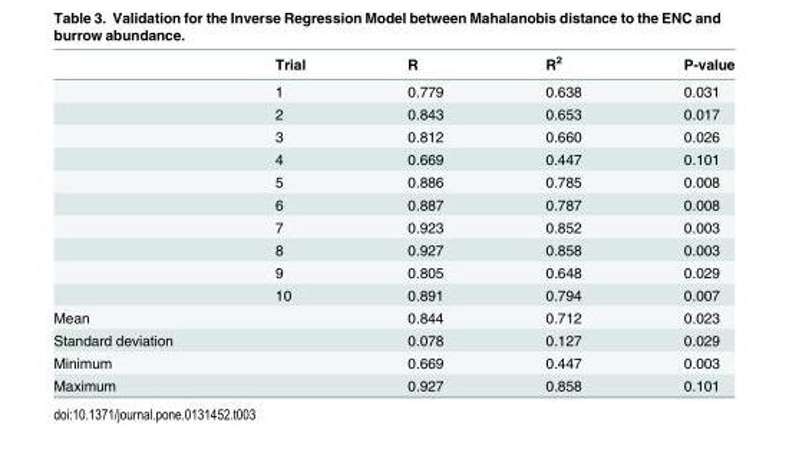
<table><thead><tr><td></td><td>Trial</td><td>R</td><td>R<sup>2</sup></td><td>P-value</td></tr></thead><tbody><tr><td></td><td>1</td><td>0.779</td><td>0.638</td><td>0.031</td></tr><tr><td></td><td>2</td><td>0.843</td><td>0.653</td><td>0.017</td></tr><tr><td></td><td>3</td><td>0.812</td><td>0.660</td><td>0.026</td></tr><tr><td></td><td>4</td><td>0.669</td><td>0.447</td><td>0.101</td></tr><tr><td></td><td>5</td><td>0.886</td><td>0.785</td><td>0.008</td></tr><tr><td></td><td>6</td><td>0.887</td><td>0.787</td><td>0.008</td></tr><tr><td></td><td>7</td><td>0.923</td><td>0.852</td><td>0.003</td></tr><tr><td></td><td>8</td><td>0.927</td><td>0.858</td><td>0.003</td></tr><tr><td></td><td>9</td><td>0.805</td><td>0.648</td><td>0.029</td></tr><tr><td></td><td>10</td><td>0.891</td><td>0.794</td><td>0.007</td></tr><tr><td>Mean</td><td></td><td>0.844</td><td>0.712</td><td>0.023</td></tr><tr><td>Standard deviation</td><td></td><td>0.078</td><td>0.127</td><td>0.029</td></tr><tr><td>Minimum</td><td></td><td>0.669</td><td>0.447</td><td>0.003</td></tr><tr><td>Maximum</td><td></td><td>0.927</td><td>0.858</td><td>0.101</td></tr></tbody></table>